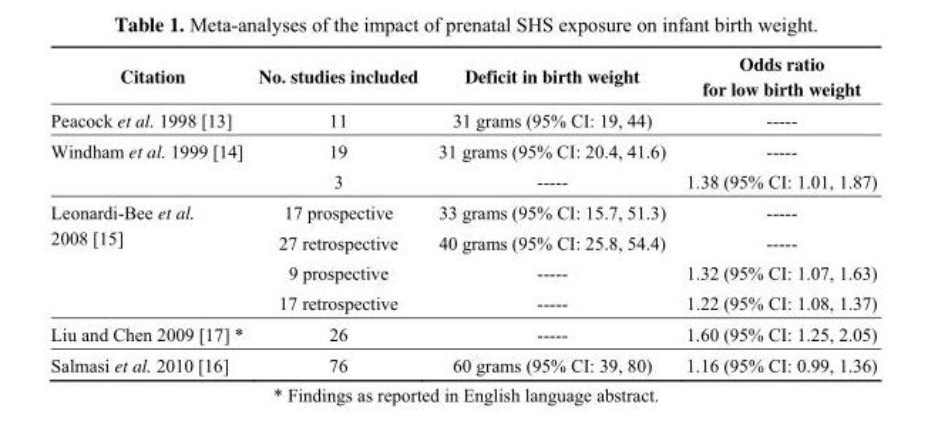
<table><thead><tr><td>Citation</td><td>No. studies included</td><td>Deficit in birth weight</td><td>Odds ratio for low birth weight</td></tr></thead><tbody><tr><td>Peacock et al. 1998 [13]</td><td>11</td><td>31 grams (95% CI: 19, 44)</td><td>-----</td></tr><tr><td rowspan="2">Windham et al. 1999 [14]</td><td>19</td><td>31 grams (95% CI: 20.4, 41.6)</td><td>-----</td></tr><tr><td>3</td><td>-----</td><td>1.38 (95% CI: 1.01, 1.87)</td></tr><tr><td rowspan="4">Leonardi-Bee et al. 2008 [15]</td><td>17 prospective</td><td>33 grams (95% CI: 15.7, 51.3)</td><td>-----</td></tr><tr><td>27 retrospective</td><td>40 grams (95% CI: 25.8, 54.4)</td><td>-----</td></tr><tr><td>9 prospective</td><td>-----</td><td>1.32 (95% CI: 1.07, 1.63)</td></tr><tr><td>17 retrospective</td><td>-----</td><td>1.22 (95% CI: 1.08, 1.37)</td></tr><tr><td>Liu and Chen 2009 [17] *</td><td>26</td><td>-----</td><td>1.60 (95% CI: 1.25, 2.05)</td></tr><tr><td>Salmasi et al. 2010 [16]</td><td>76</td><td>60 grams (95% CI: 39, 80)</td><td>1.16 (95% CI: 0.99, 1.36)</td></tr></tbody></table>